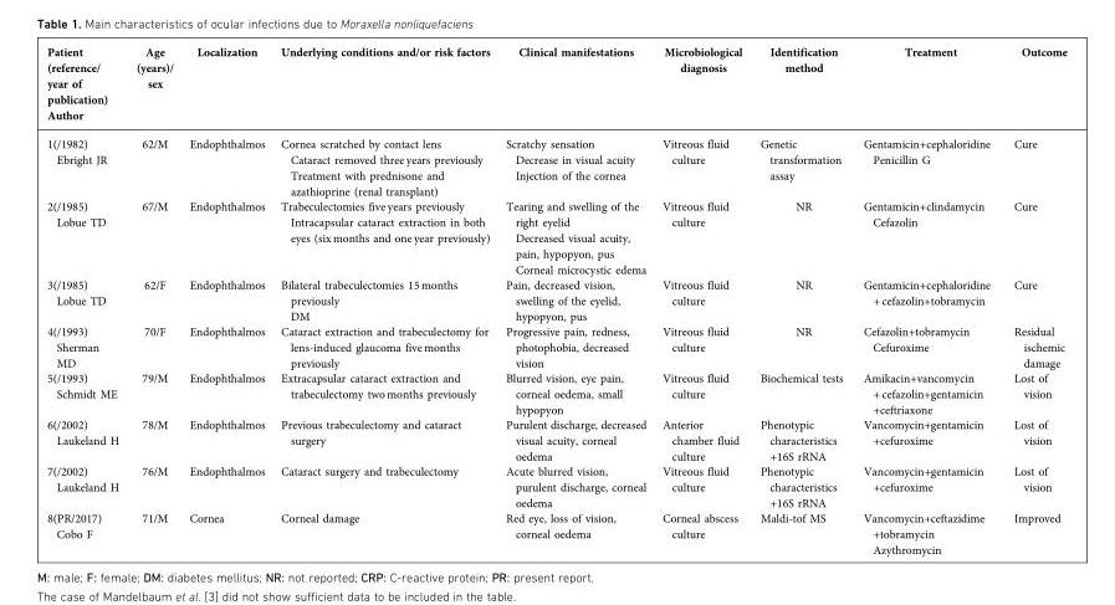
<table><thead><tr><td>Patient (reference/ year of publication) Author</td><td>Age (years)/ sex</td><td>Localization</td><td>Underlying conditions and/or risk factors</td><td>Clinical manifestations</td><td>Microbiological diagnosis</td><td>Identification method</td><td>Treatment</td><td>Outcome</td></tr></thead><tbody><tr><td>1(/1982) Ebright JR</td><td>62/M</td><td>Endophthalmos</td><td>Cornea scratched by contact lens Cataract removed three years previously Treatment with prednisone and azathioprine (renal transplant)</td><td>Scratchy sensation Decrease in visual acuity Injection of the cornea</td><td>Vitreous fluid culture</td><td>Genetic transformation assay</td><td>Gentamicin+cephaloridine Penicillin G</td><td>Cure</td></tr><tr><td>2(/1985) Lobue TD</td><td>67/M</td><td>Endophthalmos</td><td>Trabeculectomies five years previously Intracapsular cataract extraction in both eyes (six months and one year previously)</td><td>Tearing and swelling of the right eyelid Decreased visual acuity, pain, hypopyon, pus Corneal microcystic edema</td><td>Vitreous fluid culture</td><td>NR</td><td>Gentamicin+clindamycin Cefazolin</td><td>Cure</td></tr><tr><td>3(/1985) Lobue TD</td><td>62/F</td><td>Endophthalmos</td><td>Bilateral trabeculectomies 15 months previously DM</td><td>Pain, decreased vision, swelling of the eyelid, hypopyon, pus</td><td>Vitreous fluid culture</td><td>NR</td><td>Gentamicin+cephaloridine + cefazolin+tobramycin</td><td>Cure</td></tr><tr><td>4(/1993) Sherman MD</td><td>70/F</td><td>Endophthalmos</td><td>Cataract extraction and trabeculectomy for lens-induced glaucoma five months previously</td><td>Progressive pain, redness, photophobia, decreased vision</td><td>Vitreous fluid culture</td><td>NR</td><td>Cefazolin+tobramycin Cefuroxime</td><td>Residual ischemic damage</td></tr><tr><td>5(/1993) Schmidt ME</td><td>79/M</td><td>Endophthalmos</td><td>Extracapsular cataract extraction and trabeculectomy two months previously</td><td>Blurred vision, eye pain, corneal oedema, small hypopyon</td><td>Vitreous fluid culture</td><td>Biochemical tests</td><td>Amikacin+vancomycin + cefazolin+gentamicin +ceftriaxone</td><td>Lost of vision</td></tr><tr><td>6(/2002) Laukeland H</td><td>78/M</td><td>Endophthalmos</td><td>Previous trabeculectomy and cataract surgery</td><td>Purulent discharge, decreased visual acuity, corneal oedema</td><td>Anterior chamber fluid culture</td><td>Phenotypic characteristics +16S rRNA</td><td>Vancomycin+gentamicin +cefuroxime</td><td>Lost of vision</td></tr><tr><td>7(/2002) Laukeland H</td><td>76/M</td><td>Endophthalmos</td><td>Cataract surgery and trabeculectomy</td><td>Acute blurred vision, purulent discharge, corneal oedema</td><td>Vitreous fluid culture</td><td>Phenotypic characteristics +16S rRNA</td><td>Vancomycin+gentamicin +cefuroxime</td><td>Lost of vision</td></tr><tr><td>8(PR/2017) Cobo F</td><td>71/M</td><td>Cornea</td><td>Corneal damage</td><td>Red eye, loss of vision, corneal oedema</td><td>Corneal abscess culture</td><td>Maldi-tof MS</td><td>Vancomycin+ceftazidime +tobramycin Azythromycin</td><td>Improved</td></tr></tbody></table>